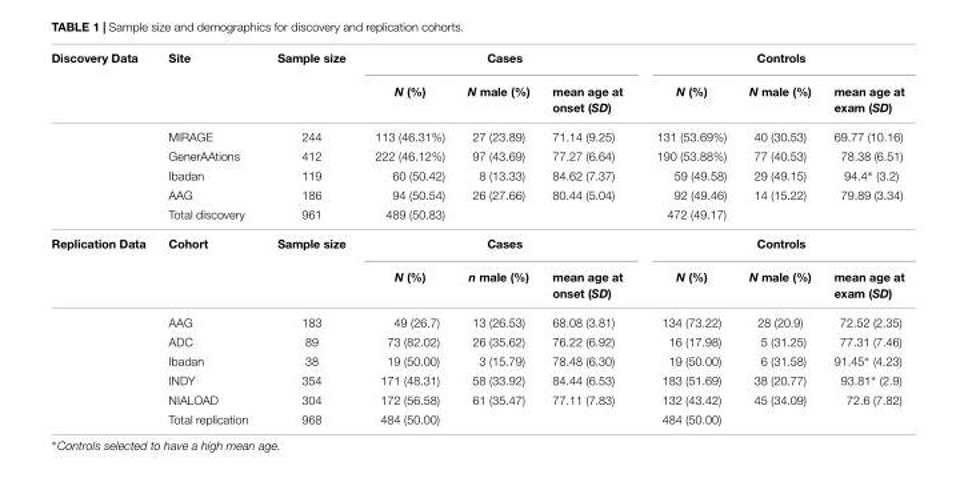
<table><thead><tr><td rowspan="2">Discovery Data</td><td rowspan="2">Site</td><td rowspan="2">Sample size</td><td colspan="3">Cases</td><td colspan="3">Controls</td></tr><tr><td>N (%)</td><td>N male (%)</td><td>mean age at onset (SD)</td><td>N (%)</td><td>N male (%)</td><td>mean age at exam (SD)</td></tr></thead><tbody><tr><td></td><td>MIRAGE</td><td>244</td><td>113 (46.31%)</td><td>27 (23.89)</td><td>71.14 (9.25)</td><td>131 (53.69%)</td><td>40 (30.53)</td><td>69.77 (10.16)</td></tr><tr><td></td><td>GenerAAtions</td><td>412</td><td>222 (46.12%)</td><td>97 (43.69)</td><td>77.27 (6.64)</td><td>190 (53.88%)</td><td>77 (40.53)</td><td>78.38 (6.51)</td></tr><tr><td></td><td>Ibadan</td><td>119</td><td>60 (50.42)</td><td>8 (13.33)</td><td>84.62 (7.37)</td><td>59 (49.58)</td><td>29 (49.15)</td><td>94.4∗ (3.2)</td></tr><tr><td></td><td>AAG</td><td>186</td><td>94 (50.54)</td><td>26 (27.66)</td><td>80.44 (5.04)</td><td>92 (49.46)</td><td>14 (15.22)</td><td>79.89 (3.34)</td></tr><tr><td></td><td>Total discovery</td><td>961</td><td>489 (50.83)</td><td></td><td></td><td>472 (49.17)</td><td></td><td></td></tr><tr><td rowspan="8">Replication Data</td><td>Cohort</td><td>Sample size</td><td colspan="3">Cases</td><td colspan="3">Controls</td></tr><tr><td></td><td></td><td>N (%)</td><td>n male (%)</td><td>mean age at onset (SD)</td><td>N (%)</td><td>N male (%)</td><td>mean age at exam (SD)</td></tr><tr><td>AAG</td><td>183</td><td>49 (26.7)</td><td>13 (26.53)</td><td>68.08 (3.81)</td><td>134 (73.22)</td><td>28 (20.9)</td><td>72.52 (2.35)</td></tr><tr><td>ADC</td><td>89</td><td>73 (82.02)</td><td>26 (35.62)</td><td>76.22 (6.92)</td><td>16 (17.98)</td><td>5 (31.25)</td><td>77.31 (7.46)</td></tr><tr><td>Ibadan</td><td>38</td><td>19 (50.00)</td><td>3 (15.79)</td><td>78.48 (6.30)</td><td>19 (50.00)</td><td>6 (31.58)</td><td>91.45∗ (4.23)</td></tr><tr><td>INDY</td><td>354</td><td>171 (48.31)</td><td>58 (33.92)</td><td>84.44 (6.53)</td><td>183 (51.69)</td><td>38 (20.77)</td><td>93.81∗ (2.9)</td></tr><tr><td>NIALOAD</td><td>304</td><td>172 (56.58)</td><td>61 (35.47)</td><td>77.11 (7.83)</td><td>132 (43.42)</td><td>45 (34.09)</td><td>72.6 (7.82)</td></tr><tr><td>Total replication</td><td>968</td><td>484 (50.00)</td><td></td><td></td><td>484 (50.00)</td><td></td><td></td></tr></tbody></table>